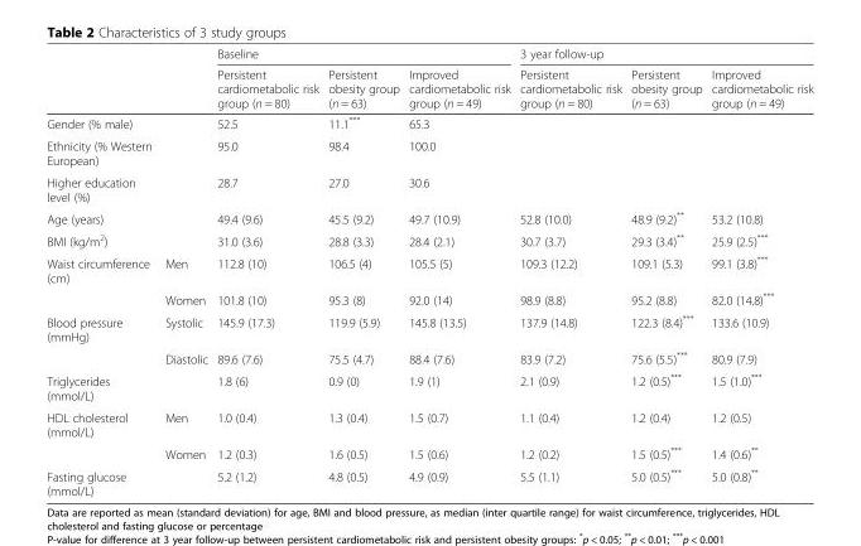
<table><thead><tr><td rowspan="2"></td><td rowspan="2"></td><td colspan="3">Baseline</td><td colspan="3">3 year follow-up</td></tr><tr><td>Persistent cardiometabolic risk group (n = 80)</td><td>Persistent obesity group (n = 63)</td><td>Improved cardiometabolic risk group (n = 49)</td><td>Persistent cardiometabolic risk group (n = 80)</td><td>Persistent obesity group (n = 63)</td><td>Improved cardiometabolic risk group (n = 49)</td></tr></thead><tbody><tr><td>Gender (% male)</td><td></td><td>52.5</td><td>11.1***</td><td>65.3</td><td></td><td></td><td></td></tr><tr><td>Ethnicity (% Western European)</td><td></td><td>95.0</td><td>98.4</td><td>100.0</td><td></td><td></td><td></td></tr><tr><td>Higher education level (%)</td><td></td><td>28.7</td><td>27.0</td><td>30.6</td><td></td><td></td><td></td></tr><tr><td>Age (years)</td><td></td><td>49.4 (9.6)</td><td>45.5 (9.2)</td><td>49.7 (10.9)</td><td>52.8 (10.0)</td><td>48.9 (9.2)**</td><td>53.2 (10.8)</td></tr><tr><td>BMI (kg/m<sup>2</sup>)</td><td></td><td>31.0 (3.6)</td><td>28.8 (3.3)</td><td>28.4 (2.1)</td><td>30.7 (3.7)</td><td>29.3 (3.4)**</td><td>25.9 (2.5)***</td></tr><tr><td rowspan="2">Waist circumference (cm)</td><td>Men</td><td>112.8 (10)</td><td>106.5 (4)</td><td>105.5 (5)</td><td>109.3 (12.2)</td><td>109.1 (5.3)</td><td>99.1 (3.8)***</td></tr><tr><td>Women</td><td>101.8 (10)</td><td>95.3 (8)</td><td>92.0 (14)</td><td>98.9 (8.8)</td><td>95.2 (8.8)</td><td>82.0 (14.8)***</td></tr><tr><td rowspan="2">Blood pressure (mmHg)</td><td>Systolic</td><td>145.9 (17.3)</td><td>119.9 (5.9)</td><td>145.8 (13.5)</td><td>137.9 (14.8)</td><td>122.3 (8.4)***</td><td>133.6 (10.9)</td></tr><tr><td>Diastolic</td><td>89.6 (7.6)</td><td>75.5 (4.7)</td><td>88.4 (7.6)</td><td>83.9 (7.2)</td><td>75.6 (5.5)***</td><td>80.9 (7.9)</td></tr><tr><td>Triglycerides (mmol/L)</td><td></td><td>1.8 (6)</td><td>0.9 (0)</td><td>1.9 (1)</td><td>2.1 (0.9)</td><td>1.2 (0.5)***</td><td>1.5 (1.0)***</td></tr><tr><td rowspan="2">HDL cholesterol (mmol/L)</td><td>Men</td><td>1.0 (0.4)</td><td>1.3 (0.4)</td><td>1.5 (0.7)</td><td>1.1 (0.4)</td><td>1.2 (0.4)</td><td>1.2 (0.5)</td></tr><tr><td>Women</td><td>1.2 (0.3)</td><td>1.6 (0.5)</td><td>1.5 (0.6)</td><td>1.2 (0.2)</td><td>1.5 (0.5)***</td><td>1.4 (0.6)**</td></tr><tr><td>Fasting glucose (mmol/L)</td><td></td><td>5.2 (1.2)</td><td>4.8 (0.5)</td><td>4.9 (0.9)</td><td>5.5 (1.1)</td><td>5.0 (0.5)***</td><td>5.0 (0.8)**</td></tr></tbody></table>